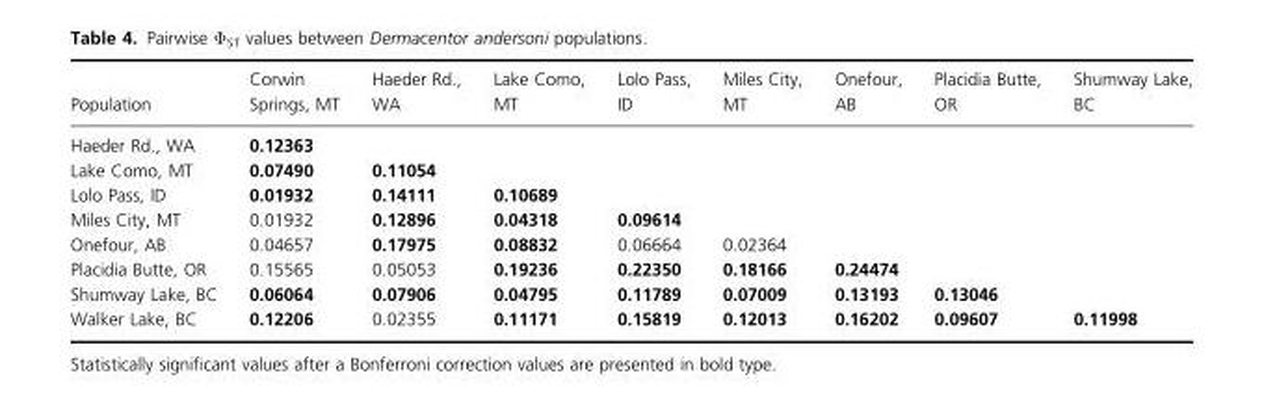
<table><thead><tr><td>Population</td><td>Corwin Springs, MT</td><td>Haeder Rd., WA</td><td>Lake Como, MT</td><td>Lolo Pass, ID</td><td>Miles City, MT</td><td>Onefour, AB</td><td>Placidia Butte, OR</td><td>Shumway Lake, BC</td></tr></thead><tbody><tr><td>Haeder Rd., WA</td><td>0.12363</td><td></td><td></td><td></td><td></td><td></td><td></td><td></td></tr><tr><td>Lake Como, MT</td><td>0.07490</td><td>0.11054</td><td></td><td></td><td></td><td></td><td></td><td></td></tr><tr><td>Lolo Pass, ID</td><td>0.01932</td><td>0.14111</td><td>0.10689</td><td></td><td></td><td></td><td></td><td></td></tr><tr><td>Miles City, MT</td><td>0.01932</td><td>0.12896</td><td>0.04318</td><td>0.09614</td><td></td><td></td><td></td><td></td></tr><tr><td>Onefour, AB</td><td>0.04657</td><td>0.17975</td><td>0.08832</td><td>0.06664</td><td>0.02364</td><td></td><td></td><td></td></tr><tr><td>Placidia Butte, OR</td><td>0.15565</td><td>0.05053</td><td>0.19236</td><td>0.22350</td><td>0.18166</td><td>0.24474</td><td></td><td></td></tr><tr><td>Shumway Lake, BC</td><td>0.06064</td><td>0.07906</td><td>0.04795</td><td>0.11789</td><td>0.07009</td><td>0.13193</td><td>0.13046</td><td></td></tr><tr><td>Walker Lake, BC</td><td>0.12206</td><td>0.02355</td><td>0.11171</td><td>0.15819</td><td>0.12013</td><td>0.16202</td><td>0.09607</td><td>0.11998</td></tr></tbody></table>